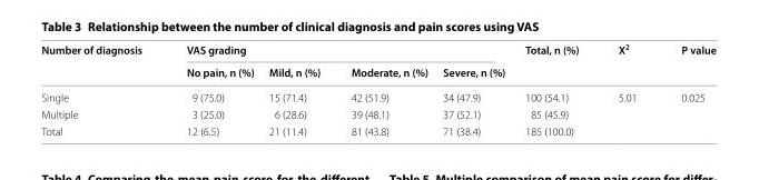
<table><thead><tr><td rowspan="2">Number of diagnosis</td><td colspan="4">VAS grading</td><td rowspan="2">Total, n (%)</td><td rowspan="2">X<sup>2</sup></td><td rowspan="2">P value</td></tr><tr><td>No pain, n (%)</td><td>Mild, n (%)</td><td>Moderate, n (%)</td><td>Severe, n (%)</td></tr></thead><tbody><tr><td>Single</td><td>9 (75.0)</td><td>15 (71.4)</td><td>42 (51.9)</td><td>34 (47.9)</td><td>100 (54.1)</td><td>5.01</td><td>0.025</td></tr><tr><td>Multiple</td><td>3 (25.0)</td><td>6 (28.6)</td><td>39 (48.1)</td><td>37 (52.1)</td><td>85 (45.9)</td><td></td><td></td></tr><tr><td>Total</td><td>12 (6.5)</td><td>21 (11.4)</td><td>81 (43.8)</td><td>71 (38.4)</td><td>185 (100.0)</td><td></td><td></td></tr></tbody></table>